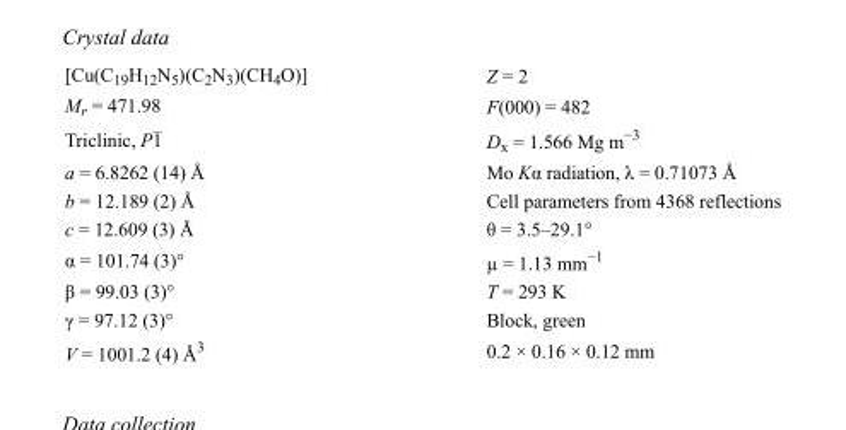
<table><tbody><tr><td>[Cu(C<sub>19</sub>H<sub>12</sub>N<sub>5</sub>)(C<sub>2</sub>N<sub>3</sub>)(CH<sub>4</sub>O)]</td><td>Z = 2</td></tr><tr><td>M<sub>r</sub> = 471.98</td><td>F(000) = 482</td></tr><tr><td>Triclinic, P1</td><td>D<sub>x</sub> = 1.566 Mg m<sup>−3</sup></td></tr><tr><td>a = 6.8262 (14) Å</td><td>Mo Kα radiation, λ = 0.71073 Å</td></tr><tr><td>b = 12.189 (2) Å</td><td>Cell parameters from 4368 reflections</td></tr><tr><td>c = 12.609 (3) Å</td><td>θ = 3.5–29.1°</td></tr><tr><td>α = 101.74 (3)°</td><td>µ = 1.13 mm<sup>−1</sup></td></tr><tr><td>β = 99.03 (3)°</td><td>T = 293 K</td></tr><tr><td>γ = 97.12 (3)°</td><td>Block, green</td></tr><tr><td>V = 1001.2 (4) Å<sup>3</sup></td><td>0.2 × 0.16 × 0.12 mm</td></tr></tbody></table>